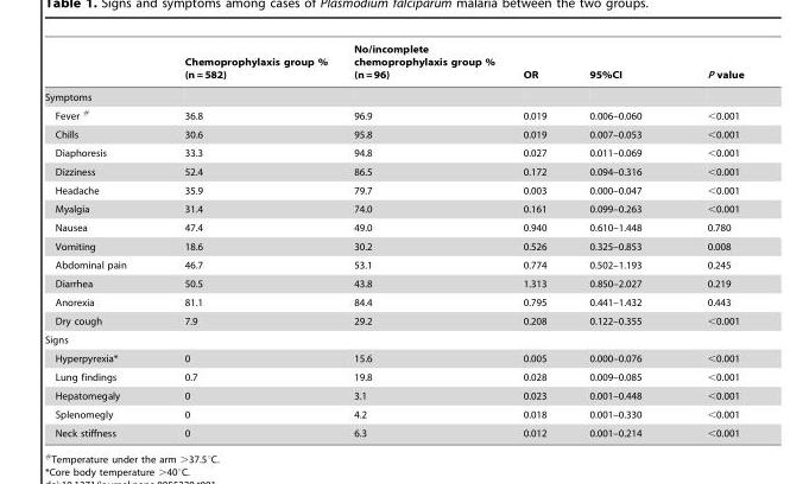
<table><thead><tr><td></td><td>Chemoprophylaxis group % (n = 582)</td><td>No/incomplete chemoprophylaxis group % (n = 96)</td><td>OR</td><td>95%CI</td><td>P value</td></tr></thead><tbody><tr><td colspan="6">Symptoms</td></tr><tr><td>Fever #</td><td>36.8</td><td>96.9</td><td>0.019</td><td>0.006–0.060</td><td>&lt;0.001</td></tr><tr><td>Chills</td><td>30.6</td><td>95.8</td><td>0.019</td><td>0.007–0.053</td><td>&lt;0.001</td></tr><tr><td>Diaphoresis</td><td>33.3</td><td>94.8</td><td>0.027</td><td>0.011–0.069</td><td>&lt;0.001</td></tr><tr><td>Dizziness</td><td>52.4</td><td>86.5</td><td>0.172</td><td>0.094–0.316</td><td>&lt;0.001</td></tr><tr><td>Headache</td><td>35.9</td><td>79.7</td><td>0.003</td><td>0.000–0.047</td><td>&lt;0.001</td></tr><tr><td>Myalgia</td><td>31.4</td><td>74.0</td><td>0.161</td><td>0.099–0.263</td><td>&lt;0.001</td></tr><tr><td>Nausea</td><td>47.4</td><td>49.0</td><td>0.940</td><td>0.610–1.448</td><td>0.780</td></tr><tr><td>Vomiting</td><td>18.6</td><td>30.2</td><td>0.526</td><td>0.325–0.853</td><td>0.008</td></tr><tr><td>Abdominal pain</td><td>46.7</td><td>53.1</td><td>0.774</td><td>0.502–1.193</td><td>0.245</td></tr><tr><td>Diarrhea</td><td>50.5</td><td>43.8</td><td>1.313</td><td>0.850–2.027</td><td>0.219</td></tr><tr><td>Anorexia</td><td>81.1</td><td>84.4</td><td>0.795</td><td>0.441–1.432</td><td>0.443</td></tr><tr><td>Dry cough</td><td>7.9</td><td>29.2</td><td>0.208</td><td>0.122–0.355</td><td>&lt;0.001</td></tr><tr><td colspan="6">Signs</td></tr><tr><td>Hyperpyrexia*</td><td>0</td><td>15.6</td><td>0.005</td><td>0.000–0.076</td><td>&lt;0.001</td></tr><tr><td>Lung findings</td><td>0.7</td><td>19.8</td><td>0.028</td><td>0.009–0.085</td><td>&lt;0.001</td></tr><tr><td>Hepatomegaly</td><td>0</td><td>3.1</td><td>0.023</td><td>0.001–0.448</td><td>&lt;0.001</td></tr><tr><td>Splenomegly</td><td>0</td><td>4.2</td><td>0.018</td><td>0.001–0.330</td><td>&lt;0.001</td></tr><tr><td>Neck stiffness</td><td>0</td><td>6.3</td><td>0.012</td><td>0.001–0.214</td><td>&lt;0.001</td></tr></tbody></table>